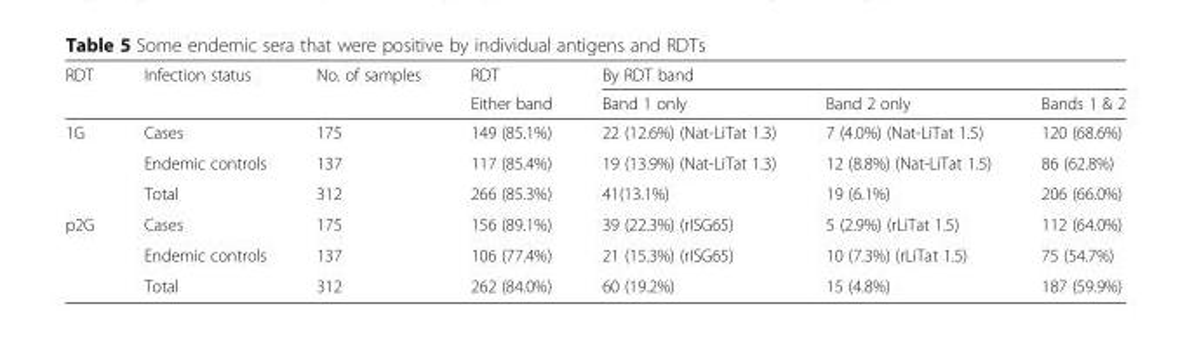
<table><thead><tr><td rowspan="2">RDT</td><td rowspan="2">Infection status</td><td rowspan="2">No. of samples</td><td rowspan="2">RDT Either band</td><td colspan="3">By RDT band</td></tr><tr><td>Band 1 only</td><td>Band 2 only</td><td>Bands 1 &amp; 2</td></tr></thead><tbody><tr><td rowspan="3">1G</td><td>Cases</td><td>175</td><td>149 (85.1%)</td><td>22 (12.6%) (Nat-LiTat 1.3)</td><td>7 (4.0%) (Nat-LiTat 1.5)</td><td>120 (68.6%)</td></tr><tr><td>Endemic controls</td><td>137</td><td>117 (85.4%)</td><td>19 (13.9%) (Nat-LiTat 1.3)</td><td>12 (8.8%) (Nat-LiTat 1.5)</td><td>86 (62.8%)</td></tr><tr><td>Total</td><td>312</td><td>266 (85.3%)</td><td>41(13.1%)</td><td>19 (6.1%)</td><td>206 (66.0%)</td></tr><tr><td rowspan="3">p2G</td><td>Cases</td><td>175</td><td>156 (89.1%)</td><td>39 (22.3%) (rISG65)</td><td>5 (2.9%) (rLiTat 1.5)</td><td>112 (64.0%)</td></tr><tr><td>Endemic controls</td><td>137</td><td>106 (77.4%)</td><td>21 (15.3%) (rISG65)</td><td>10 (7.3%) (rLiTat 1.5)</td><td>75 (54.7%)</td></tr><tr><td>Total</td><td>312</td><td>262 (84.0%)</td><td>60 (19.2%)</td><td>15 (4.8%)</td><td>187 (59.9%)</td></tr></tbody></table>